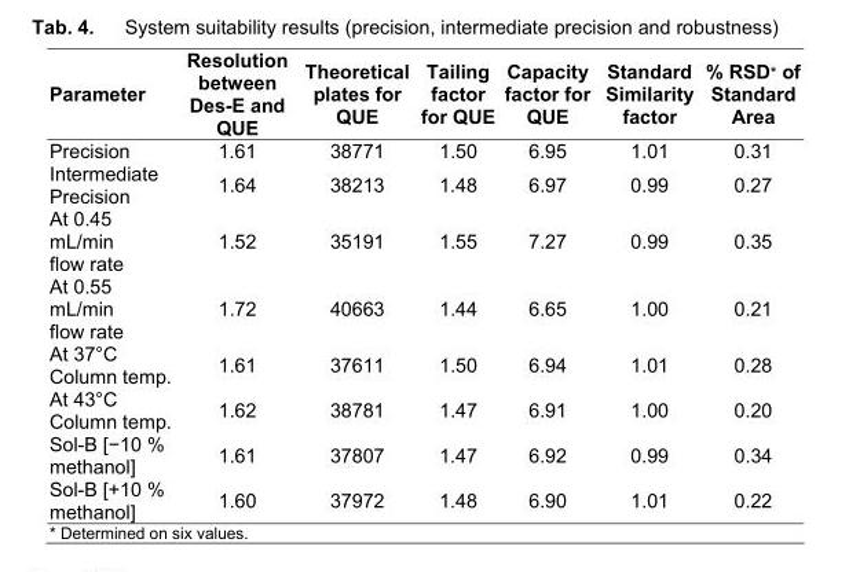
<table><thead><tr><td>Parameter</td><td>Resolution between Des-E and QUE</td><td>Theoretical plates for QUE</td><td>Tailing factor for QUE</td><td>Capacity factor for QUE</td><td>Standard Similarity factor</td><td>% RSD* of Standard Area</td></tr></thead><tbody><tr><td>Precision</td><td>1.61</td><td>38771</td><td>1.50</td><td>6.95</td><td>1.01</td><td>0.31</td></tr><tr><td>Intermediate Precision</td><td>1.64</td><td>38213</td><td>1.48</td><td>6.97</td><td>0.99</td><td>0.27</td></tr><tr><td>At 0.45 mL/min flow rate</td><td>1.52</td><td>35191</td><td>1.55</td><td>7.27</td><td>0.99</td><td>0.35</td></tr><tr><td>At 0.55 mL/min flow rate</td><td>1.72</td><td>40663</td><td>1.44</td><td>6.65</td><td>1.00</td><td>0.21</td></tr><tr><td>At 37°C Column temp.</td><td>1.61</td><td>37611</td><td>1.50</td><td>6.94</td><td>1.01</td><td>0.28</td></tr><tr><td>At 43°C Column temp.</td><td>1.62</td><td>38781</td><td>1.47</td><td>6.91</td><td>1.00</td><td>0.20</td></tr><tr><td>Sol-B [−10 % methanol]</td><td>1.61</td><td>37807</td><td>1.47</td><td>6.92</td><td>0.99</td><td>0.34</td></tr><tr><td>Sol-B [+10 % methanol]</td><td>1.60</td><td>37972</td><td>1.48</td><td>6.90</td><td>1.01</td><td>0.22</td></tr></tbody></table>